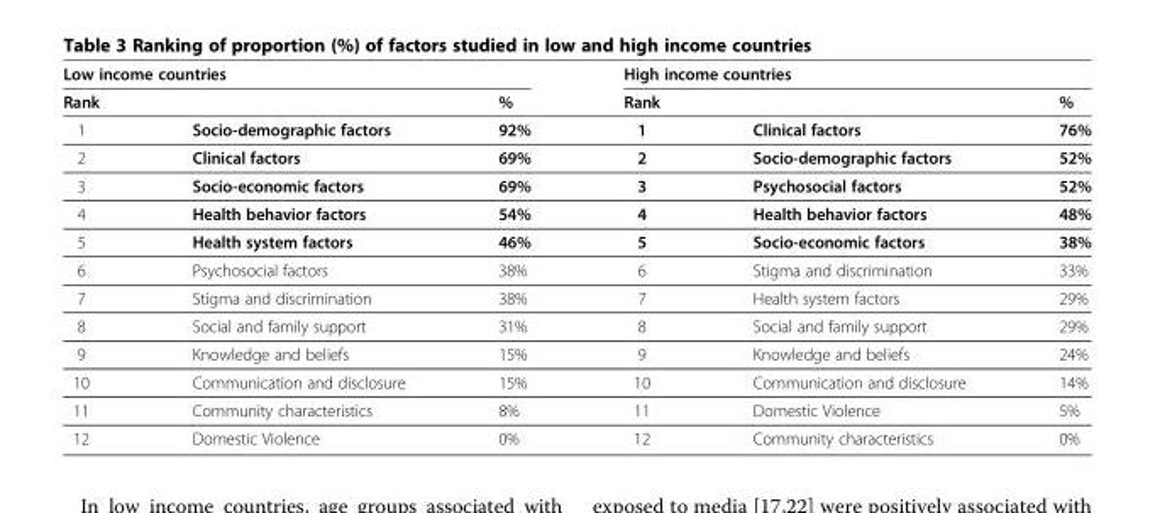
<table><thead><tr><td colspan="3">Low income countries</td><td colspan="3">High income countries</td></tr><tr><td>Rank</td><td></td><td>%</td><td>Rank</td><td></td><td>%</td></tr></thead><tbody><tr><td>1</td><td>Socio-demographic factors</td><td>92%</td><td>1</td><td>Clinical factors</td><td>76%</td></tr><tr><td>2</td><td>Clinical factors</td><td>69%</td><td>2</td><td>Socio-demographic factors</td><td>52%</td></tr><tr><td>3</td><td>Socio-economic factors</td><td>69%</td><td>3</td><td>Psychosocial factors</td><td>52%</td></tr><tr><td>4</td><td>Health behavior factors</td><td>54%</td><td>4</td><td>Health behavior factors</td><td>48%</td></tr><tr><td>5</td><td>Health system factors</td><td>46%</td><td>5</td><td>Socio-economic factors</td><td>38%</td></tr><tr><td>6</td><td>Psychosocial factors</td><td>38%</td><td>6</td><td>Stigma and discrimination</td><td>33%</td></tr><tr><td>7</td><td>Stigma and discrimination</td><td>38%</td><td>7</td><td>Health system factors</td><td>29%</td></tr><tr><td>8</td><td>Social and family support</td><td>31%</td><td>8</td><td>Social and family support</td><td>29%</td></tr><tr><td>9</td><td>Knowledge and beliefs</td><td>15%</td><td>9</td><td>Knowledge and beliefs</td><td>24%</td></tr><tr><td>10</td><td>Communication and disclosure</td><td>15%</td><td>10</td><td>Communication and disclosure</td><td>14%</td></tr><tr><td>11</td><td>Community characteristics</td><td>8%</td><td>11</td><td>Domestic Violence</td><td>5%</td></tr><tr><td>12</td><td>Domestic Violence</td><td>0%</td><td>12</td><td>Community characteristics</td><td>0%</td></tr></tbody></table>